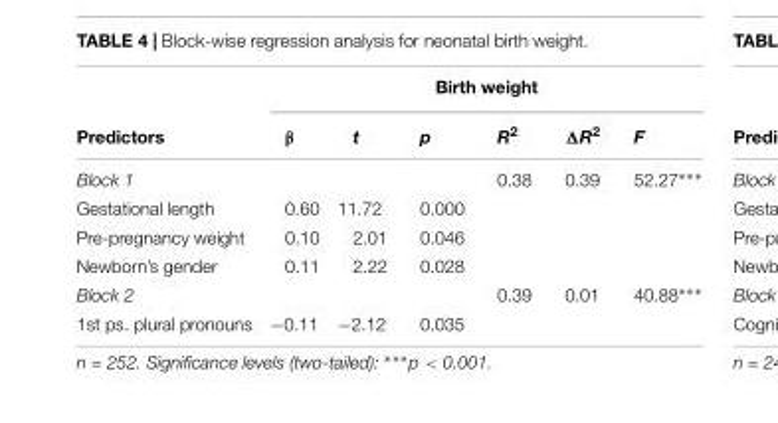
<table><thead><tr><td rowspan="2">Predictors</td><td colspan="6">Birth weight</td></tr><tr><td>β</td><td>t</td><td>p</td><td>R<sup>2</sup></td><td>ΔR<sup>2</sup></td><td>F</td></tr></thead><tbody><tr><td>Block 1</td><td></td><td></td><td></td><td>0.38</td><td>0.39</td><td>52.27∗∗∗</td></tr><tr><td>Gestational length</td><td>0.60</td><td>11.72</td><td>0.000</td><td></td><td></td><td></td></tr><tr><td>Pre-pregnancy weight</td><td>0.10</td><td>2.01</td><td>0.046</td><td></td><td></td><td></td></tr><tr><td>Newborn’s gender</td><td>0.11</td><td>2.22</td><td>0.028</td><td></td><td></td><td></td></tr><tr><td>Block 2</td><td></td><td></td><td></td><td>0.39</td><td>0.01</td><td>40.88∗∗∗</td></tr><tr><td>1st ps. plural pronouns</td><td>−0.11</td><td>−2.12</td><td>0.035</td><td></td><td></td><td></td></tr></tbody></table>